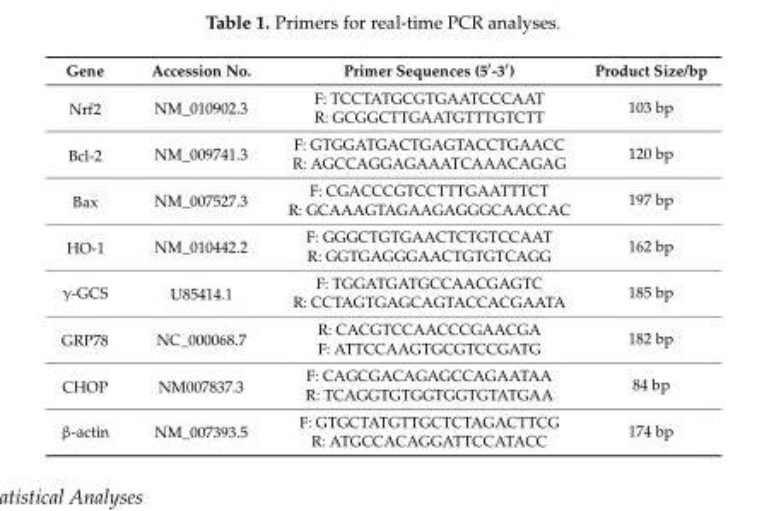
<table><thead><tr><td>Gene</td><td>Accession No.</td><td>Primer Sequences (5′-3′)</td><td>Product Size/bp</td></tr></thead><tbody><tr><td rowspan="2">Nrf2</td><td rowspan="2">NM_010902.3</td><td>F: TCCTATGCGTGAATCCCAAT</td><td rowspan="2">103 bp</td></tr><tr><td>R: GCGGCTTGAATGTTTGTCTT</td></tr><tr><td rowspan="2">Bcl-2</td><td rowspan="2">NM_009741.3</td><td>F: GTGGATGACTGAGTACCTGAACC</td><td rowspan="2">120 bp</td></tr><tr><td>R: AGCCAGGAGAAATCAAACAGAG</td></tr><tr><td rowspan="2">Bax</td><td rowspan="2">NM_007527.3</td><td>F: CGACCCGTCCTTTGAATTTCT</td><td rowspan="2">197 bp</td></tr><tr><td>R: GCAAAGTAGAAGAGGGCAACCAC</td></tr><tr><td rowspan="2">HO-1</td><td rowspan="2">NM_010442.2</td><td>F: GGGCTGTGAACTCTGTCCAAT</td><td rowspan="2">162 bp</td></tr><tr><td>R: GGTGAGGGAACTGTGTCAGG</td></tr><tr><td rowspan="2">γ-GCS</td><td rowspan="2">U85414.1</td><td>F: TGGATGATGCCAACGAGTC</td><td rowspan="2">185 bp</td></tr><tr><td>R: CCTAGTGAGCAGTACCACGAATA</td></tr><tr><td rowspan="2">GRP78</td><td rowspan="2">NC_000068.7</td><td>R: CACGTCCAACCCGAACGA</td><td rowspan="2">182 bp</td></tr><tr><td>F: ATTCCAAGTGCGTCCGATG</td></tr><tr><td rowspan="2">CHOP</td><td rowspan="2">NM007837.3</td><td>F: CAGCGACAGAGCCAGAATAA</td><td rowspan="2">84 bp</td></tr><tr><td>R: TCAGGTGTGGTGGTGTATGAA</td></tr><tr><td rowspan="2">β-actin</td><td rowspan="2">NM_007393.5</td><td>F: GTGCTATGTTGCTCTAGACTTCG</td><td rowspan="2">174 bp</td></tr><tr><td>R: ATGCCACAGGATTCCATACC</td></tr></tbody></table>